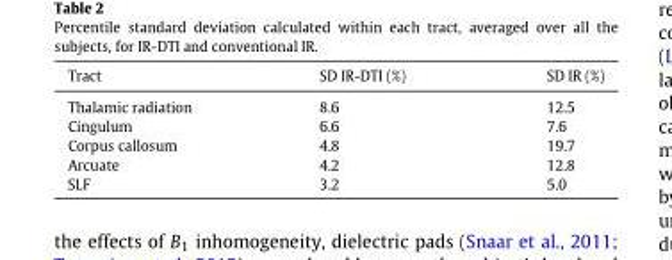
<table><thead><tr><td>Tract</td><td>SD IR-DTI (%)</td><td>SD IR (%)</td></tr></thead><tbody><tr><td>Thalamic radiation</td><td>8.6</td><td>12.5</td></tr><tr><td>Cingulum</td><td>6.6</td><td>7.6</td></tr><tr><td>Corpus callosum</td><td>4.8</td><td>19.7</td></tr><tr><td>Arcuate</td><td>4.2</td><td>12.8</td></tr><tr><td>SLF</td><td>3.2</td><td>5.0</td></tr></tbody></table>